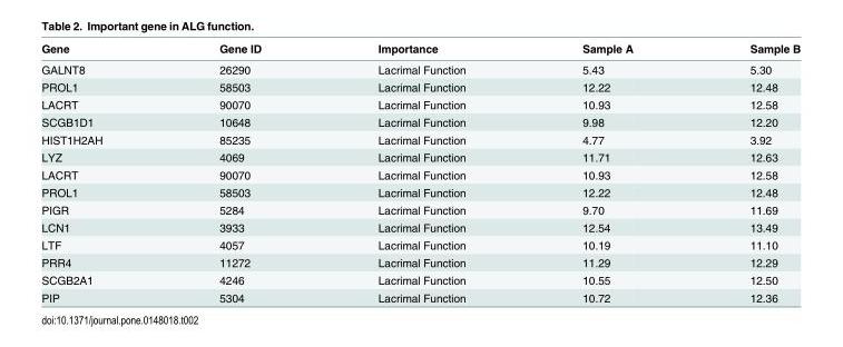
<table><thead><tr><td>Gene</td><td>Gene ID</td><td>Importance</td><td>Sample A</td><td>Sample B</td></tr></thead><tbody><tr><td>GALNT8</td><td>26290</td><td>Lacrimal Function</td><td>5.43</td><td>5.30</td></tr><tr><td>PROL1</td><td>58503</td><td>Lacrimal Function</td><td>12.22</td><td>12.48</td></tr><tr><td>LACRT</td><td>90070</td><td>Lacrimal Function</td><td>10.93</td><td>12.58</td></tr><tr><td>SCGB1D1</td><td>10648</td><td>Lacrimal Function</td><td>9.98</td><td>12.20</td></tr><tr><td>HIST1H2AH</td><td>85235</td><td>Lacrimal Function</td><td>4.77</td><td>3.92</td></tr><tr><td>LYZ</td><td>4069</td><td>Lacrimal Function</td><td>11.71</td><td>12.63</td></tr><tr><td>LACRT</td><td>90070</td><td>Lacrimal Function</td><td>10.93</td><td>12.58</td></tr><tr><td>PROL1</td><td>58503</td><td>Lacrimal Function</td><td>12.22</td><td>12.48</td></tr><tr><td>PIGR</td><td>5284</td><td>Lacrimal Function</td><td>9.70</td><td>11.69</td></tr><tr><td>LCN1</td><td>3933</td><td>Lacrimal Function</td><td>12.54</td><td>13.49</td></tr><tr><td>LTF</td><td>4057</td><td>Lacrimal Function</td><td>10.19</td><td>11.10</td></tr><tr><td>PRR4</td><td>11272</td><td>Lacrimal Function</td><td>11.29</td><td>12.29</td></tr><tr><td>SCGB2A1</td><td>4246</td><td>Lacrimal Function</td><td>10.55</td><td>12.50</td></tr><tr><td>PIP</td><td>5304</td><td>Lacrimal Function</td><td>10.72</td><td>12.36</td></tr></tbody></table>